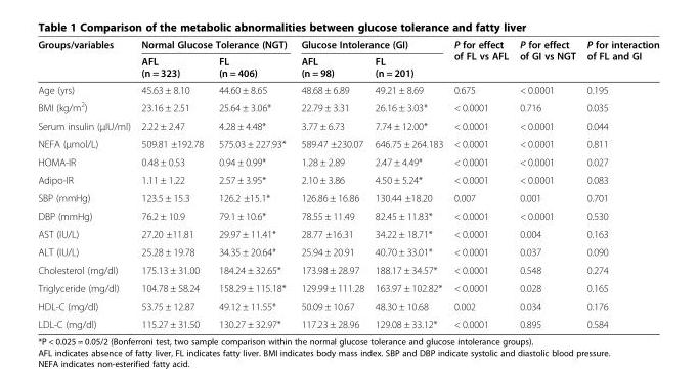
<table><thead><tr><td rowspan="2">Groups/variables</td><td colspan="2">Normal Glucose Tolerance (NGT)</td><td colspan="2">Glucose Intolerance (GI)</td><td rowspan="2">P for effect of FL vs AFL</td><td rowspan="2">P for effect of GI vs NGT</td><td rowspan="2">P for interaction of FL and GI</td></tr><tr><td>AFL (n = 323)</td><td>FL (n = 406)</td><td>AFL (n = 98)</td><td>FL (n = 201)</td></tr></thead><tbody><tr><td>Age (yrs)</td><td>45.63 ± 8.10</td><td>44.60 ± 8.65</td><td>48.68 ± 6.89</td><td>49.21 ± 8.69</td><td>0.675</td><td>&lt; 0.0001</td><td>0.195</td></tr><tr><td>BMI (kg/m<sup>2</sup>)</td><td>23.16 ± 2.51</td><td>25.64 ± 3.06*</td><td>22.79 ± 3.31</td><td>26.16 ± 3.03*</td><td>&lt; 0.0001</td><td>0.716</td><td>0.035</td></tr><tr><td>Serum insulin (μIU/ml)</td><td>2.22 ± 2.47</td><td>4.28 ± 4.48*</td><td>3.77 ± 6.73</td><td>7.74 ± 12.00*</td><td>&lt; 0.0001</td><td>&lt; 0.0001</td><td>0.044</td></tr><tr><td>NEFA (μmol/L)</td><td>509.81 ±192.78</td><td>575.03 ± 227.93*</td><td>589.47 ±230.07</td><td>646.75 ± 264.183</td><td>&lt; 0.0001</td><td>&lt; 0.0001</td><td>0.811</td></tr><tr><td>HOMA-IR</td><td>0.48 ± 0.53</td><td>0.94 ± 0.99*</td><td>1.28 ± 2.89</td><td>2.47 ± 4.49*</td><td>&lt; 0.0001</td><td>&lt; 0.0001</td><td>0.027</td></tr><tr><td>Adipo-IR</td><td>1.11 ± 1.22</td><td>2.57 ± 3.95*</td><td>2.10 ± 3.86</td><td>4.50 ± 5.24*</td><td>&lt; 0.0001</td><td>&lt; 0.0001</td><td>0.083</td></tr><tr><td>SBP (mmHg)</td><td>123.5 ± 15.3</td><td>126.2 ±15.1*</td><td>126.86 ± 16.86</td><td>130.44 ±18.20</td><td>0.007</td><td>0.001</td><td>0.701</td></tr><tr><td>DBP (mmHg)</td><td>76.2 ± 10.9</td><td>79.1 ± 10.6*</td><td>78.55 ± 11.49</td><td>82.45 ± 11.83*</td><td>&lt; 0.0001</td><td>&lt; 0.0001</td><td>0.530</td></tr><tr><td>AST (IU/L)</td><td>27.20 ±11.81</td><td>29.97 ± 11.41*</td><td>28.77 ±16.31</td><td>34.22 ± 18.71*</td><td>&lt; 0.0001</td><td>0.004</td><td>0.163</td></tr><tr><td>ALT (IU/L)</td><td>25.28 ± 19.78</td><td>34.35 ± 20.64*</td><td>25.94 ± 20.91</td><td>40.70 ± 33.01*</td><td>&lt; 0.0001</td><td>0.037</td><td>0.090</td></tr><tr><td>Cholesterol (mg/dl)</td><td>175.13 ± 31.00</td><td>184.24 ± 32.65*</td><td>173.98 ± 28.97</td><td>188.17 ± 34.57*</td><td>&lt; 0.0001</td><td>0.548</td><td>0.274</td></tr><tr><td>Triglyceride (mg/dl)</td><td>104.78 ± 58.24</td><td>158.29 ± 115.18*</td><td>129.99 ± 111.28</td><td>163.97 ± 102.82*</td><td>&lt; 0.0001</td><td>0.028</td><td>0.165</td></tr><tr><td>HDL-C (mg/dl)</td><td>53.75 ± 12.87</td><td>49.12 ± 11.55*</td><td>50.09 ± 10.67</td><td>48.30 ± 10.68</td><td>0.002</td><td>0.034</td><td>0.176</td></tr><tr><td>LDL-C (mg/dl)</td><td>115.27 ± 31.50</td><td>130.27 ± 32.97*</td><td>117.23 ± 28.96</td><td>129.08 ± 33.12*</td><td>&lt; 0.0001</td><td>0.895</td><td>0.584</td></tr></tbody></table>